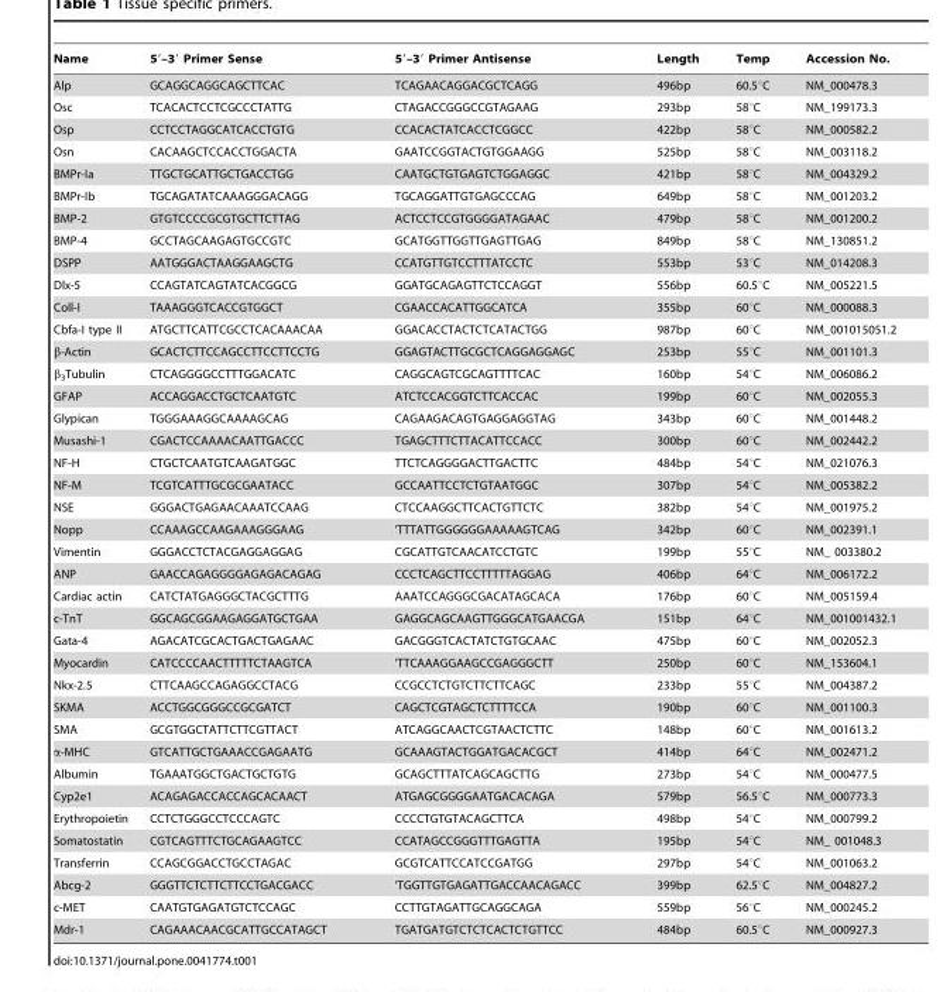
<table><thead><tr><td>Name</td><td>5′–3′ Primer Sense</td><td>5′–3′ Primer Antisense</td><td>Length</td><td>Temp</td><td>Accession No.</td></tr></thead><tbody><tr><td>Alp</td><td>GCAGGCAGGCAGCTTCAC</td><td>TCAGAACAGGACGCTCAGG</td><td>496bp</td><td>60.5°C</td><td>NM_000478.3</td></tr><tr><td>Osc</td><td>TCACACTCCTCGCCCTATTG</td><td>CTAGACCGGGCCGTAGAAG</td><td>293bp</td><td>58°C</td><td>NM_199173.3</td></tr><tr><td>Osp</td><td>CCTCCTAGGCATCACCTGTG</td><td>CCACACTATCACCTCGGCC</td><td>422bp</td><td>58°C</td><td>NM_000582.2</td></tr><tr><td>Osn</td><td>CACAAGCTCCACCTGGACTA</td><td>GAATCCGGTACTGTGGAAGG</td><td>525bp</td><td>58°C</td><td>NM_003118.2</td></tr><tr><td>BMPr-Ia</td><td>TTGCTGCATTGCTGACCTGG</td><td>CAATGCTGTGAGTCTGGAGGC</td><td>421bp</td><td>58°C</td><td>NM_004329.2</td></tr><tr><td>BMPr-Ib</td><td>TGCAGATATCAAAGGGACAGG</td><td>TGCAGGATTGTGAGCCCAG</td><td>649bp</td><td>58°C</td><td>NM_001203.2</td></tr><tr><td>BMP-2</td><td>GTGTCCCCGCGTGCTTCTTAG</td><td>ACTCCTCCGTGGGGATAGAAC</td><td>479bp</td><td>58°C</td><td>NM_001200.2</td></tr><tr><td>BMP-4</td><td>GCCTAGCAAGAGTGCCGTC</td><td>GCATGGTTGGTTGAGTTGAG</td><td>849bp</td><td>58°C</td><td>NM_130851.2</td></tr><tr><td>DSPP</td><td>AATGGGACTAAGGAAGCTG</td><td>CCATGTTGTCCTTTATCCTC</td><td>553bp</td><td>53°C</td><td>NM_014208.3</td></tr><tr><td>Dlx-5</td><td>CCAGTATCAGTATCACGGCG</td><td>GGATGCAGAGTTCTCCAGGT</td><td>556bp</td><td>60.5°C</td><td>NM_005221.5</td></tr><tr><td>Coll-I</td><td>TAAAGGGTCACCGTGGCT</td><td>CGAACCACATTGGCATCA</td><td>355bp</td><td>60°C</td><td>NM_000088.3</td></tr><tr><td>Cbfa-I type II</td><td>ATGCTTCATTCGCCTCACAAACAA</td><td>GGACACCTACTCTCATACTGG</td><td>987bp</td><td>60°C</td><td>NM_001015051.2</td></tr><tr><td>β-Actin</td><td>GCACTCTTCCAGCCTTCCTTCCTG</td><td>GGAGTACTTGCGCTCAGGAGGAGC</td><td>253bp</td><td>55°C</td><td>NM_001101.3</td></tr><tr><td>β<sub>3</sub>Tubulin</td><td>CTCAGGGGCCTTTGGACATC</td><td>CAGGCAGTCGCAGTTTTCAC</td><td>160bp</td><td>54°C</td><td>NM_006086.2</td></tr><tr><td>GFAP</td><td>ACCAGGACCTGCTCAATGTC</td><td>ATCTCCACGGTCTTCACCAC</td><td>199bp</td><td>60°C</td><td>NM_002055.3</td></tr><tr><td>Glypican</td><td>TGGGAAAGGCAAAAGCAG</td><td>CAGAAGACAGTGAGGAGGTAG</td><td>343bp</td><td>60°C</td><td>NM_001448.2</td></tr><tr><td>Musashi-1</td><td>CGACTCCAAAACAATTGACCC</td><td>TGAGCTTTCTTACATTCCACC</td><td>300bp</td><td>60°C</td><td>NM_002442.2</td></tr><tr><td>NF-H</td><td>CTGCTCAATGTCAAGATGGC</td><td>TTCTCAGGGGACTTGACTTC</td><td>484bp</td><td>54°C</td><td>NM_021076.3</td></tr><tr><td>NF-M</td><td>TCGTCATTTGCGCGAATACC</td><td>GCCAATTCCTCTGTAATGGC</td><td>307bp</td><td>54°C</td><td>NM_005382.2</td></tr><tr><td>NSE</td><td>GGGACTGAGAACAAATCCAAG</td><td>CTCCAAGGCTTCACTGTTCTC</td><td>382bp</td><td>54°C</td><td>NM_001975.2</td></tr><tr><td>Nopp</td><td>CCAAAGCCAAGAAAGGGAAG</td><td>’TTTATTGGGGGGAAAAAGTCAG</td><td>342bp</td><td>60°C</td><td>NM_002391.1</td></tr><tr><td>Vimentin</td><td>GGGACCTCTACGAGGAGGAG</td><td>CGCATTGTCAACATCCTGTC</td><td>199bp</td><td>55°C</td><td>NM_ 003380.2</td></tr><tr><td>ANP</td><td>GAACCAGAGGGGAGAGACAGAG</td><td>CCCTCAGCTTCCTTTTTAGGAG</td><td>406bp</td><td>64°C</td><td>NM_006172.2</td></tr><tr><td>Cardiac actin</td><td>CATCTATGAGGGCTACGCTTTG</td><td>AAATCCAGGGCGACATAGCACA</td><td>176bp</td><td>60°C</td><td>NM_005159.4</td></tr><tr><td>c-TnT</td><td>GGCAGCGGAAGAGGATGCTGAA</td><td>GAGGCAGCAAGTTGGGCATGAACGA</td><td>151bp</td><td>64°C</td><td>NM_001001432.1</td></tr><tr><td>Gata-4</td><td>AGACATCGCACTGACTGAGAAC</td><td>GACGGGTCACTATCTGTGCAAC</td><td>475bp</td><td>60°C</td><td>NM_002052.3</td></tr><tr><td>Myocardin</td><td>CATCCCCAACTTTTTCTAAGTCA</td><td>’TTCAAAGGAAGCCGAGGGCTT</td><td>250bp</td><td>60°C</td><td>NM_153604.1</td></tr><tr><td>Nkx-2.5</td><td>CTTCAAGCCAGAGGCCTACG</td><td>CCGCCTCTGTCTTCTTCAGC</td><td>233bp</td><td>55°C</td><td>NM_004387.2</td></tr><tr><td>SKMA</td><td>ACCTGGCGGGCCGCGATCT</td><td>CAGCTCGTAGCTCTTTTCCA</td><td>190bp</td><td>60°C</td><td>NM_001100.3</td></tr><tr><td>SMA</td><td>GCGTGGCTATTCTTCGTTACT</td><td>ATCAGGCAACTCGTAACTCTTC</td><td>148bp</td><td>60°C</td><td>NM_001613.2</td></tr><tr><td>α-MHC</td><td>GTCATTGCTGAAACCGAGAATG</td><td>GCAAAGTACTGGATGACACGCT</td><td>414bp</td><td>64°C</td><td>NM_002471.2</td></tr><tr><td>Albumin</td><td>TGAAATGGCTGACTGCTGTG</td><td>GCAGCTTTATCAGCAGCTTG</td><td>273bp</td><td>54°C</td><td>NM_000477.5</td></tr><tr><td>Cyp2e1</td><td>ACAGAGACCACCAGCACAACT</td><td>ATGAGCGGGGAATGACACAGA</td><td>579bp</td><td>56.5°C</td><td>NM_000773.3</td></tr><tr><td>Erythropoietin</td><td>CCTCTGGGCCTCCCAGTC</td><td>CCCCTGTGTACAGCTTCA</td><td>498bp</td><td>54°C</td><td>NM_000799.2</td></tr><tr><td>Somatostatin</td><td>CGTCAGTTTCTGCAGAAGTCC</td><td>CCATAGCCGGGTTTGAGTTA</td><td>195bp</td><td>54°C</td><td>NM_ 001048.3</td></tr><tr><td>Transferrin</td><td>CCAGCGGACCTGCCTAGAC</td><td>GCGTCATTCCATCCGATGG</td><td>297bp</td><td>54°C</td><td>NM_001063.2</td></tr><tr><td>Abcg-2</td><td>GGGTTCTCTTCTTCCTGACGACC</td><td>’TGGTTGTGAGATTGACCAACAGACC</td><td>399bp</td><td>62.5°C</td><td>NM_004827.2</td></tr><tr><td>c-MET</td><td>CAATGTGAGATGTCTCCAGC</td><td>CCTTGTAGATTGCAGGCAGA</td><td>559bp</td><td>56°C</td><td>NM_000245.2</td></tr><tr><td>Mdr-1</td><td>CAGAAACAACGCATTGCCATAGCT</td><td>TGATGATGTCTCTCACTCTGTTCC</td><td>484bp</td><td>60.5°C</td><td>NM_000927.3</td></tr></tbody></table>